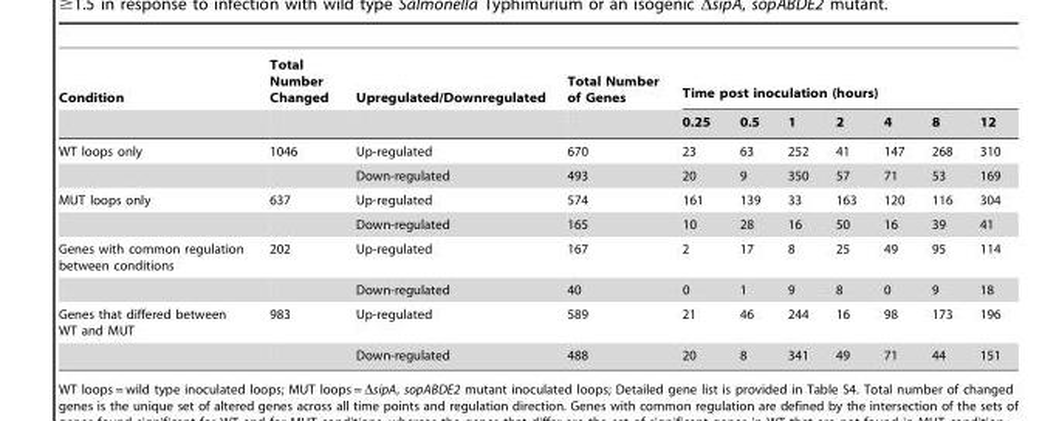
<table><thead><tr><td rowspan="2">Condition</td><td rowspan="2">Total Number Changed</td><td rowspan="2">Upregulated/Downregulated</td><td rowspan="2">Total Number of Genes</td><td colspan="7">Time post inoculation (hours)</td></tr><tr><td>0.25</td><td>0.5</td><td>1</td><td>2</td><td>4</td><td>8</td><td>12</td></tr></thead><tbody><tr><td rowspan="2">WT loops only</td><td>1046</td><td>Up-regulated</td><td>670</td><td>23</td><td>63</td><td>252</td><td>41</td><td>147</td><td>268</td><td>310</td></tr><tr><td></td><td>Down-regulated</td><td>493</td><td>20</td><td>9</td><td>350</td><td>57</td><td>71</td><td>53</td><td>169</td></tr><tr><td rowspan="2">MUT loops only</td><td>637</td><td>Up-regulated</td><td>574</td><td>161</td><td>139</td><td>33</td><td>163</td><td>120</td><td>116</td><td>304</td></tr><tr><td></td><td>Down-regulated</td><td>165</td><td>10</td><td>28</td><td>16</td><td>50</td><td>16</td><td>39</td><td>41</td></tr><tr><td rowspan="2">Genes with common regulation between conditions</td><td>202</td><td>Up-regulated</td><td>167</td><td>2</td><td>17</td><td>8</td><td>25</td><td>49</td><td>95</td><td>114</td></tr><tr><td></td><td>Down-regulated</td><td>40</td><td>0</td><td>1</td><td>9</td><td>8</td><td>0</td><td>9</td><td>18</td></tr><tr><td rowspan="2">Genes that differed between WT and MUT</td><td>983</td><td>Up-regulated</td><td>589</td><td>21</td><td>46</td><td>244</td><td>16</td><td>98</td><td>173</td><td>196</td></tr><tr><td></td><td>Down-regulated</td><td>488</td><td>20</td><td>8</td><td>341</td><td>49</td><td>71</td><td>44</td><td>151</td></tr></tbody></table>